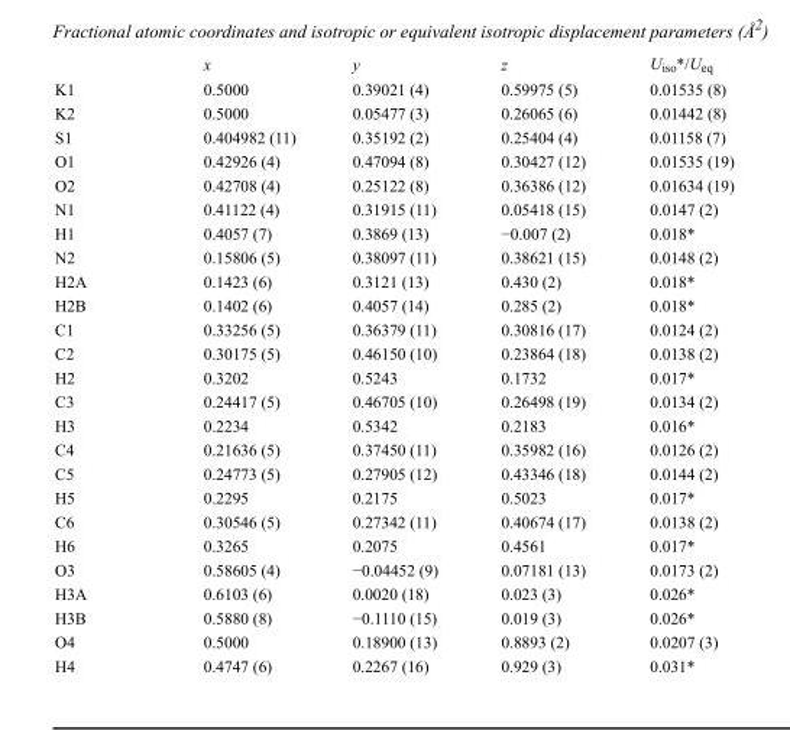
<table><thead><tr><td></td><td>x</td><td>y</td><td>z</td><td>U<sub>iso</sub>*/U<sub>eq</sub></td></tr></thead><tbody><tr><td>K1</td><td>0.5000</td><td>0.39021 (4)</td><td>0.59975 (5)</td><td>0.01535 (8)</td></tr><tr><td>K2</td><td>0.5000</td><td>0.05477 (3)</td><td>0.26065 (6)</td><td>0.01442 (8)</td></tr><tr><td>S1</td><td>0.404982 (11)</td><td>0.35192 (2)</td><td>0.25404 (4)</td><td>0.01158 (7)</td></tr><tr><td>O1</td><td>0.42926 (4)</td><td>0.47094 (8)</td><td>0.30427 (12)</td><td>0.01535 (19)</td></tr><tr><td>O2</td><td>0.42708 (4)</td><td>0.25122 (8)</td><td>0.36386 (12)</td><td>0.01634 (19)</td></tr><tr><td>N1</td><td>0.41122 (4)</td><td>0.31915 (11)</td><td>0.05418 (15)</td><td>0.0147 (2)</td></tr><tr><td>H1</td><td>0.4057 (7)</td><td>0.3869 (13)</td><td>−0.007 (2)</td><td>0.018*</td></tr><tr><td>N2</td><td>0.15806 (5)</td><td>0.38097 (11)</td><td>0.38621 (15)</td><td>0.0148 (2)</td></tr><tr><td>H2A</td><td>0.1423 (6)</td><td>0.3121 (13)</td><td>0.430 (2)</td><td>0.018*</td></tr><tr><td>H2B</td><td>0.1402 (6)</td><td>0.4057 (14)</td><td>0.285 (2)</td><td>0.018*</td></tr><tr><td>C1</td><td>0.33256 (5)</td><td>0.36379 (11)</td><td>0.30816 (17)</td><td>0.0124 (2)</td></tr><tr><td>C2</td><td>0.30175 (5)</td><td>0.46150 (10)</td><td>0.23864 (18)</td><td>0.0138 (2)</td></tr><tr><td>H2</td><td>0.3202</td><td>0.5243</td><td>0.1732</td><td>0.017*</td></tr><tr><td>C3</td><td>0.24417 (5)</td><td>0.46705 (10)</td><td>0.26498 (19)</td><td>0.0134 (2)</td></tr><tr><td>H3</td><td>0.2234</td><td>0.5342</td><td>0.2183</td><td>0.016*</td></tr><tr><td>C4</td><td>0.21636 (5)</td><td>0.37450 (11)</td><td>0.35982 (16)</td><td>0.0126 (2)</td></tr><tr><td>C5</td><td>0.24773 (5)</td><td>0.27905 (12)</td><td>0.43346 (18)</td><td>0.0144 (2)</td></tr><tr><td>H5</td><td>0.2295</td><td>0.2175</td><td>0.5023</td><td>0.017*</td></tr><tr><td>C6</td><td>0.30546 (5)</td><td>0.27342 (11)</td><td>0.40674 (17)</td><td>0.0138 (2)</td></tr><tr><td>H6</td><td>0.3265</td><td>0.2075</td><td>0.4561</td><td>0.017*</td></tr><tr><td>O3</td><td>0.58605 (4)</td><td>−0.04452 (9)</td><td>0.07181 (13)</td><td>0.0173 (2)</td></tr><tr><td>H3A</td><td>0.6103 (6)</td><td>0.0020 (18)</td><td>0.023 (3)</td><td>0.026*</td></tr><tr><td>H3B</td><td>0.5880 (8)</td><td>−0.1110 (15)</td><td>0.019 (3)</td><td>0.026*</td></tr><tr><td>O4</td><td>0.5000</td><td>0.18900 (13)</td><td>0.8893 (2)</td><td>0.0207 (3)</td></tr><tr><td>H4</td><td>0.4747 (6)</td><td>0.2267 (16)</td><td>0.929 (3)</td><td>0.031*</td></tr></tbody></table>